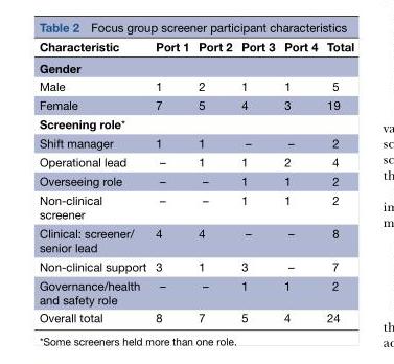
<table><thead><tr><td>Characteristic</td><td>Port 1</td><td>Port 2</td><td>Port 3</td><td>Port 4</td><td>Total</td></tr></thead><tbody><tr><td colspan="6">Gender</td></tr><tr><td>Male</td><td>1</td><td>2</td><td>1</td><td>1</td><td>5</td></tr><tr><td>Female</td><td>7</td><td>5</td><td>4</td><td>3</td><td>19</td></tr><tr><td colspan="6">Screening role*</td></tr><tr><td>Shift manager</td><td>1</td><td>1</td><td>–</td><td>–</td><td>2</td></tr><tr><td>Operational lead</td><td>–</td><td>1</td><td>1</td><td>2</td><td>4</td></tr><tr><td>Overseeing role</td><td>–</td><td>–</td><td>1</td><td>1</td><td>2</td></tr><tr><td>Non-clinical screener</td><td>–</td><td>–</td><td>1</td><td>1</td><td>2</td></tr><tr><td>Clinical: screener/ senior lead</td><td>4</td><td>4</td><td>–</td><td>–</td><td>8</td></tr><tr><td>Non-clinical support</td><td>3</td><td>1</td><td>3</td><td>–</td><td>7</td></tr><tr><td>Governance/health and safety role</td><td>–</td><td>–</td><td>1</td><td>1</td><td>2</td></tr><tr><td>Overall total</td><td>8</td><td>7</td><td>5</td><td>4</td><td>24</td></tr></tbody></table>